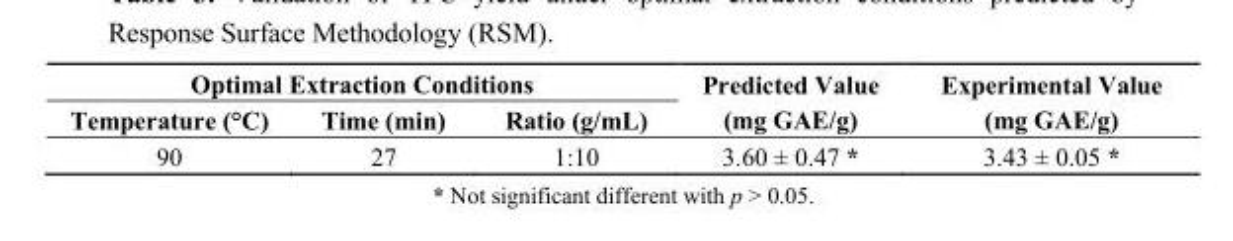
<table><thead><tr><td colspan="3">Optimal Extraction Conditions</td><td rowspan="2">Predicted Value (mg GAE/g)</td><td rowspan="2">Experimental Value (mg GAE/g)</td></tr><tr><td>Temperature (°C)</td><td>Time (min)</td><td>Ratio (g/mL)</td></tr></thead><tbody><tr><td>90</td><td>27</td><td>1:10</td><td>3.60 ± 0.47 *</td><td>3.43 ± 0.05 *</td></tr></tbody></table>